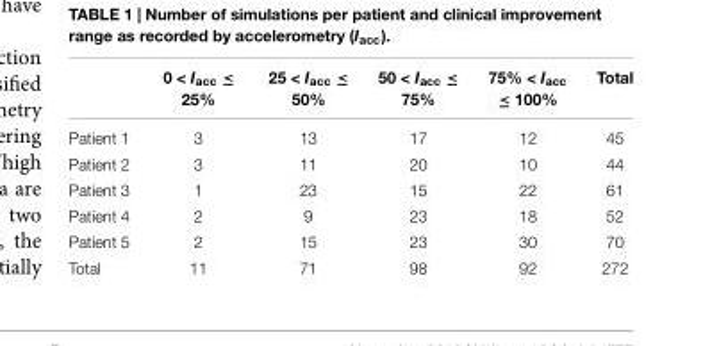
<table><thead><tr><td></td><td>0 &lt; I<sub>acc</sub> ≤ 25%</td><td>25 &lt; I<sub>acc</sub> ≤ 50%</td><td>50 &lt; I<sub>acc</sub> ≤ 75%</td><td>75% &lt; I<sub>acc</sub> ≤ 100%</td><td>Total</td></tr></thead><tbody><tr><td>Patient 1</td><td>3</td><td>13</td><td>17</td><td>12</td><td>45</td></tr><tr><td>Patient 2</td><td>3</td><td>11</td><td>20</td><td>10</td><td>44</td></tr><tr><td>Patient 3</td><td>1</td><td>23</td><td>15</td><td>22</td><td>61</td></tr><tr><td>Patient 4</td><td>2</td><td>9</td><td>23</td><td>18</td><td>52</td></tr><tr><td>Patient 5</td><td>2</td><td>15</td><td>23</td><td>30</td><td>70</td></tr><tr><td>Total</td><td>11</td><td>71</td><td>98</td><td>92</td><td>272</td></tr></tbody></table>